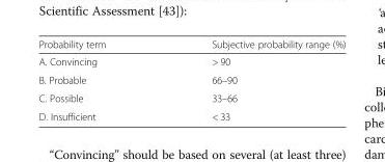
<table><thead><tr><td>Probability term</td><td>Subjective probability range (%)</td></tr></thead><tbody><tr><td>A. Convincing</td><td>&gt; 90</td></tr><tr><td>B. Probable</td><td>66–90</td></tr><tr><td>C. Possible</td><td>33–66</td></tr><tr><td>D. Insufficient</td><td>&lt; 33</td></tr></tbody></table>